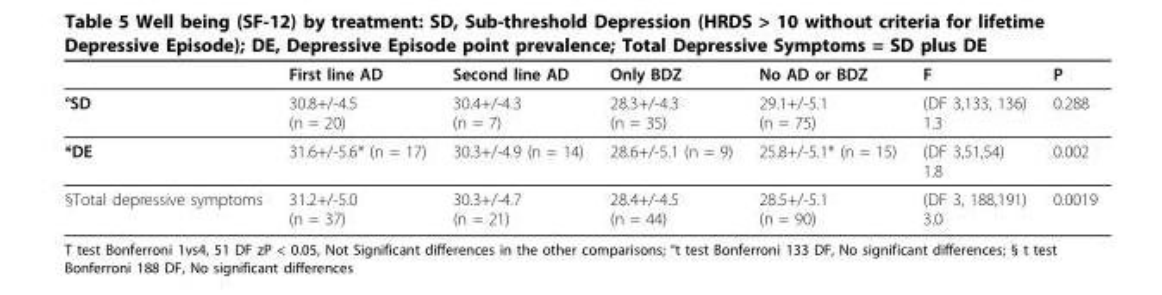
<table><thead><tr><td></td><td>First line AD</td><td>Second line AD</td><td>Only BDZ</td><td>No AD or BDZ</td><td>F</td><td>P</td></tr></thead><tbody><tr><td>°SD</td><td>30.8+/-4.5 (n = 20)</td><td>30.4+/-4.3 (n = 7)</td><td>28.3+/-4.3 (n = 35)</td><td>29.1+/-5.1 (n = 75)</td><td>(DF 3,133, 136) 1.3</td><td>0.288</td></tr><tr><td>*DE</td><td>31.6+/-5.6* (n = 17)</td><td>30.3+/-4.9 (n = 14)</td><td>28.6+/-5.1 (n = 9)</td><td>25.8+/-5.1* (n = 15)</td><td>(DF 3,51,54) 1.8</td><td>0.002</td></tr><tr><td>§Total depressive symptoms</td><td>31.2+/-5.0 (n = 37)</td><td>30.3+/-4.7 (n = 21)</td><td>28.4+/-4.5 (n = 44)</td><td>28.5+/-5.1 (n = 90)</td><td>(DF 3, 188,191) 3.0</td><td>0.0019</td></tr></tbody></table>